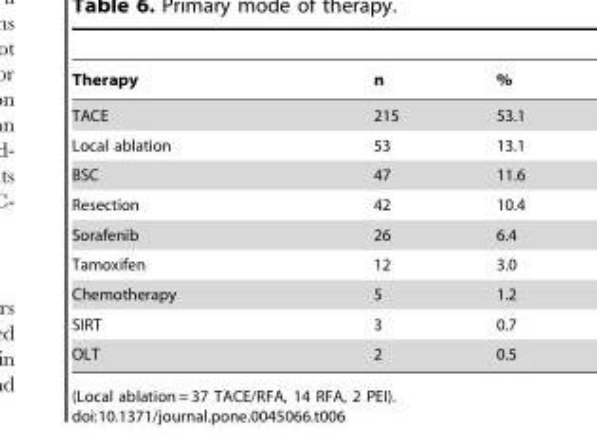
<table><thead><tr><td>Therapy</td><td>n</td><td>%</td></tr></thead><tbody><tr><td>TACE</td><td>215</td><td>53.1</td></tr><tr><td>Local ablation</td><td>53</td><td>13.1</td></tr><tr><td>BSC</td><td>47</td><td>11.6</td></tr><tr><td>Resection</td><td>42</td><td>10.4</td></tr><tr><td>Sorafenib</td><td>26</td><td>6.4</td></tr><tr><td>Tamoxifen</td><td>12</td><td>3.0</td></tr><tr><td>Chemotherapy</td><td>5</td><td>1.2</td></tr><tr><td>SIRT</td><td>3</td><td>0.7</td></tr><tr><td>OLT</td><td>2</td><td>0.5</td></tr></tbody></table>